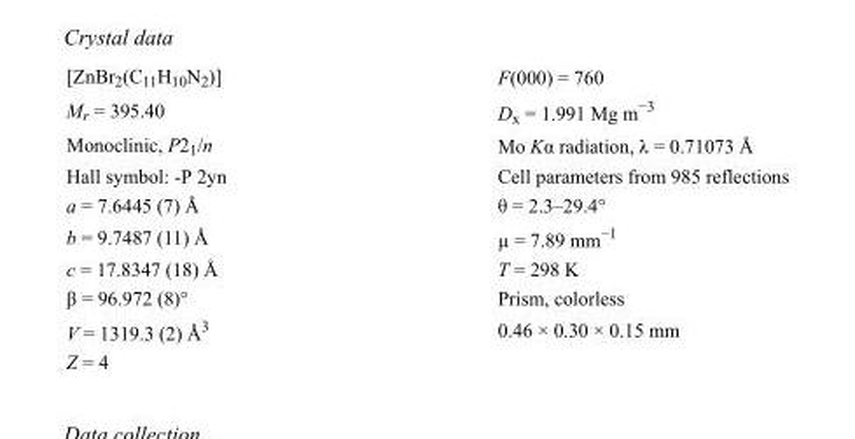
<table><tbody><tr><td>[ZnBr<sub>2</sub>(C<sub>11</sub>H<sub>10</sub>N<sub>2</sub>)]</td><td>F(000) = 760</td></tr><tr><td>M<sub>r</sub> = 395.40</td><td>D<sub>x</sub> = 1.991 Mg m<sup>−3</sup></td></tr><tr><td>Monoclinic, P2<sub>1</sub>/n</td><td>Mo Kα radiation, λ = 0.71073 Å</td></tr><tr><td>Hall symbol: -P 2yn</td><td>Cell parameters from 985 reflections</td></tr><tr><td>a = 7.6445 (7) Å</td><td>θ = 2.3–29.4°</td></tr><tr><td>b = 9.7487 (11) Å</td><td>µ = 7.89 mm<sup>−1</sup></td></tr><tr><td>c = 17.8347 (18) Å</td><td>T = 298 K</td></tr><tr><td>β = 96.972 (8)°</td><td>Prism, colorless</td></tr><tr><td>V = 1319.3 (2) Å<sup>3</sup></td><td>0.46 × 0.30 × 0.15 mm</td></tr><tr><td>Z = 4</td><td></td></tr></tbody></table>